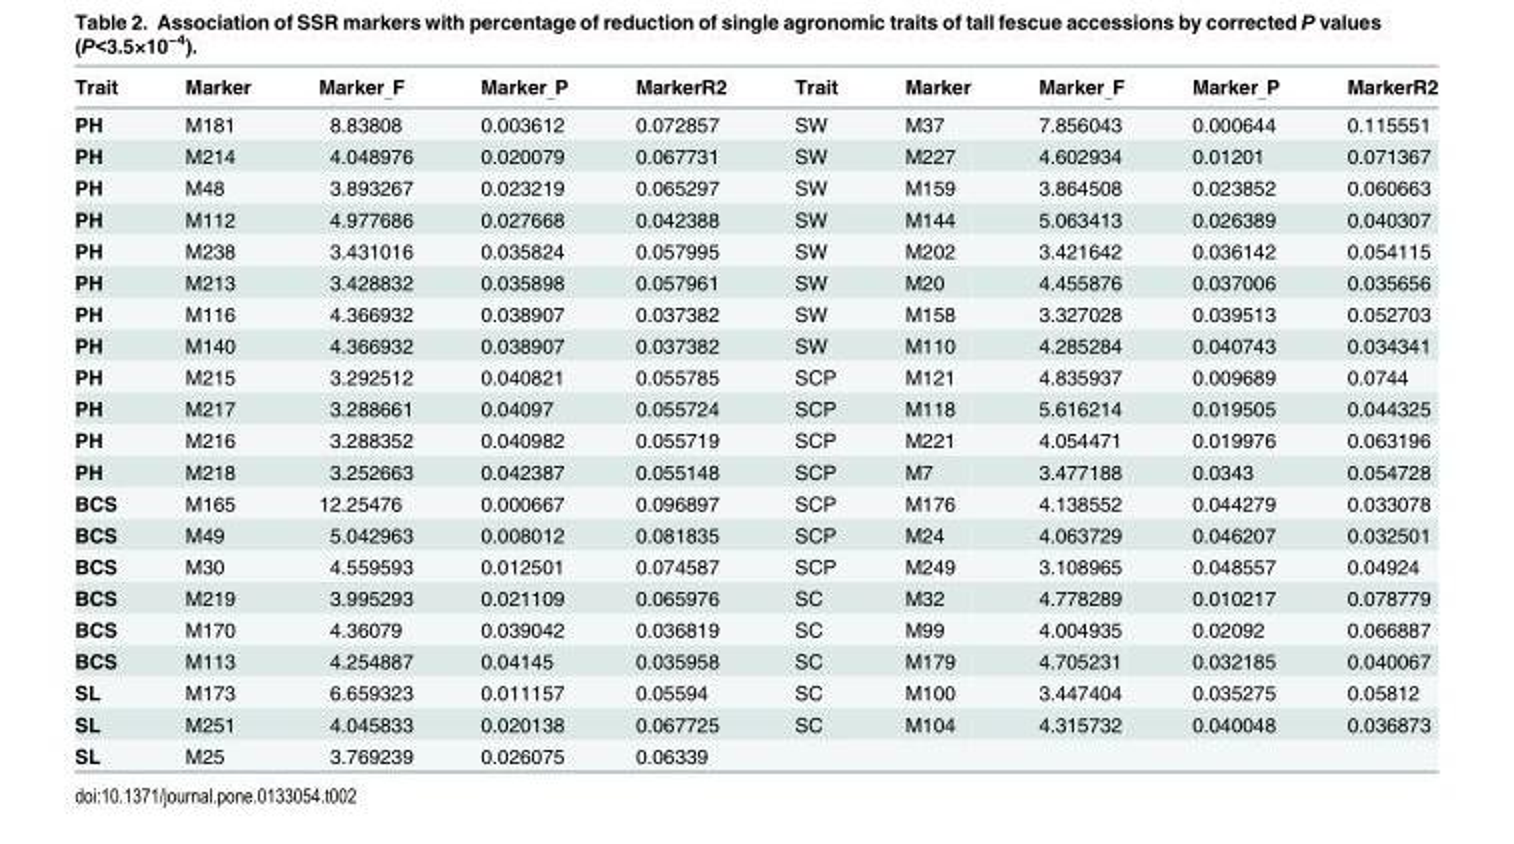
<table><thead><tr><td>Trait</td><td>Marker</td><td>Marker<sub>_</sub>F</td><td>Marker<sub>_</sub>P</td><td>MarkerR2</td><td>Trait</td><td>Marker</td><td>Marker<sub>_</sub>F</td><td>Marker<sub>_</sub>P</td><td>MarkerR2</td></tr></thead><tbody><tr><td>PH</td><td>M181</td><td>8.83808</td><td>0.003612</td><td>0.072857</td><td>SW</td><td>M37</td><td>7.856043</td><td>0.000644</td><td>0.115551</td></tr><tr><td>PH</td><td>M214</td><td>4.048976</td><td>0.020079</td><td>0.067731</td><td>SW</td><td>M227</td><td>4.602934</td><td>0.01201</td><td>0.071367</td></tr><tr><td>PH</td><td>M48</td><td>3.893267</td><td>0.023219</td><td>0.065297</td><td>SW</td><td>M159</td><td>3.864508</td><td>0.023852</td><td>0.060663</td></tr><tr><td>PH</td><td>M112</td><td>4.977686</td><td>0.027668</td><td>0.042388</td><td>SW</td><td>M144</td><td>5.063413</td><td>0.026389</td><td>0.040307</td></tr><tr><td>PH</td><td>M238</td><td>3.431016</td><td>0.035824</td><td>0.057995</td><td>SW</td><td>M202</td><td>3.421642</td><td>0.036142</td><td>0.054115</td></tr><tr><td>PH</td><td>M213</td><td>3.428832</td><td>0.035898</td><td>0.057961</td><td>SW</td><td>M20</td><td>4.455876</td><td>0.037006</td><td>0.035656</td></tr><tr><td>PH</td><td>M116</td><td>4.366932</td><td>0.038907</td><td>0.037382</td><td>SW</td><td>M158</td><td>3.327028</td><td>0.039513</td><td>0.052703</td></tr><tr><td>PH</td><td>M140</td><td>4.366932</td><td>0.038907</td><td>0.037382</td><td>SW</td><td>M110</td><td>4.285284</td><td>0.040743</td><td>0.034341</td></tr><tr><td>PH</td><td>M215</td><td>3.292512</td><td>0.040821</td><td>0.055785</td><td>SCP</td><td>M121</td><td>4.835937</td><td>0.009689</td><td>0.0744</td></tr><tr><td>PH</td><td>M217</td><td>3.288661</td><td>0.04097</td><td>0.055724</td><td>SCP</td><td>M118</td><td>5.616214</td><td>0.019505</td><td>0.044325</td></tr><tr><td>PH</td><td>M216</td><td>3.288352</td><td>0.040982</td><td>0.055719</td><td>SCP</td><td>M221</td><td>4.054471</td><td>0.019976</td><td>0.063196</td></tr><tr><td>PH</td><td>M218</td><td>3.252663</td><td>0.042387</td><td>0.055148</td><td>SCP</td><td>M7</td><td>3.477188</td><td>0.0343</td><td>0.054728</td></tr><tr><td>BCS</td><td>M165</td><td>12.25476</td><td>0.000667</td><td>0.096897</td><td>SCP</td><td>M176</td><td>4.138552</td><td>0.044279</td><td>0.033078</td></tr><tr><td>BCS</td><td>M49</td><td>5.042963</td><td>0.008012</td><td>0.081835</td><td>SCP</td><td>M24</td><td>4.063729</td><td>0.046207</td><td>0.032501</td></tr><tr><td>BCS</td><td>M30</td><td>4.559593</td><td>0.012501</td><td>0.074587</td><td>SCP</td><td>M249</td><td>3.108965</td><td>0.048557</td><td>0.04924</td></tr><tr><td>BCS</td><td>M219</td><td>3.995293</td><td>0.021109</td><td>0.065976</td><td>SC</td><td>M32</td><td>4.778289</td><td>0.010217</td><td>0.078779</td></tr><tr><td>BCS</td><td>M170</td><td>4.36079</td><td>0.039042</td><td>0.036819</td><td>SC</td><td>M99</td><td>4.004935</td><td>0.02092</td><td>0.066887</td></tr><tr><td>BCS</td><td>M113</td><td>4.254887</td><td>0.04145</td><td>0.035958</td><td>SC</td><td>M179</td><td>4.705231</td><td>0.032185</td><td>0.040067</td></tr><tr><td>SL</td><td>M173</td><td>6.659323</td><td>0.011157</td><td>0.05594</td><td>SC</td><td>M100</td><td>3.447404</td><td>0.035275</td><td>0.05812</td></tr><tr><td>SL</td><td>M251</td><td>4.045833</td><td>0.020138</td><td>0.067725</td><td>SC</td><td>M104</td><td>4.315732</td><td>0.040048</td><td>0.036873</td></tr><tr><td>SL</td><td>M25</td><td>3.769239</td><td>0.026075</td><td>0.06339</td><td></td><td></td><td></td><td></td><td></td></tr></tbody></table>